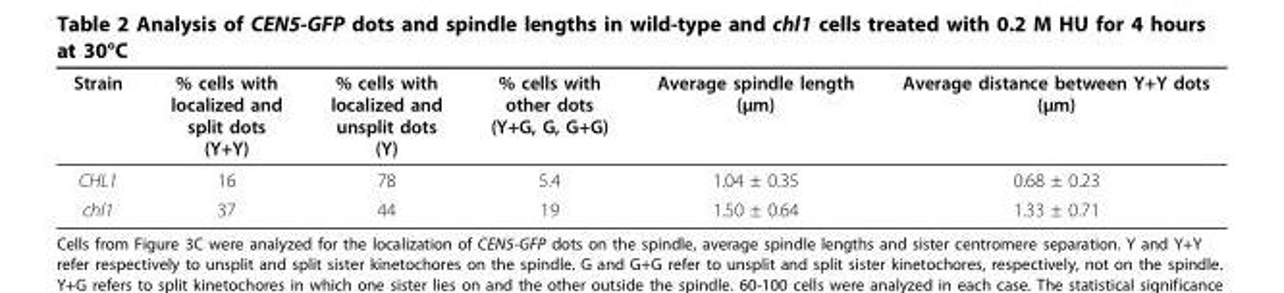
<table><thead><tr><td>Strain</td><td>% cells with localized and split dots (Y+Y)</td><td>% cells with localized and unsplit dots (Y)</td><td>% cells with other dots (Y+G, G, G+G)</td><td>Average spindle length (μm)</td><td>Average distance between Y+Y dots (μm)</td></tr></thead><tbody><tr><td>CHL1</td><td>16</td><td>78</td><td>5.4</td><td>1.04 ± 0.35</td><td>0.68 ± 0.23</td></tr><tr><td>chl1</td><td>37</td><td>44</td><td>19</td><td>1.50 ± 0.64</td><td>1.33 ± 0.71</td></tr></tbody></table>